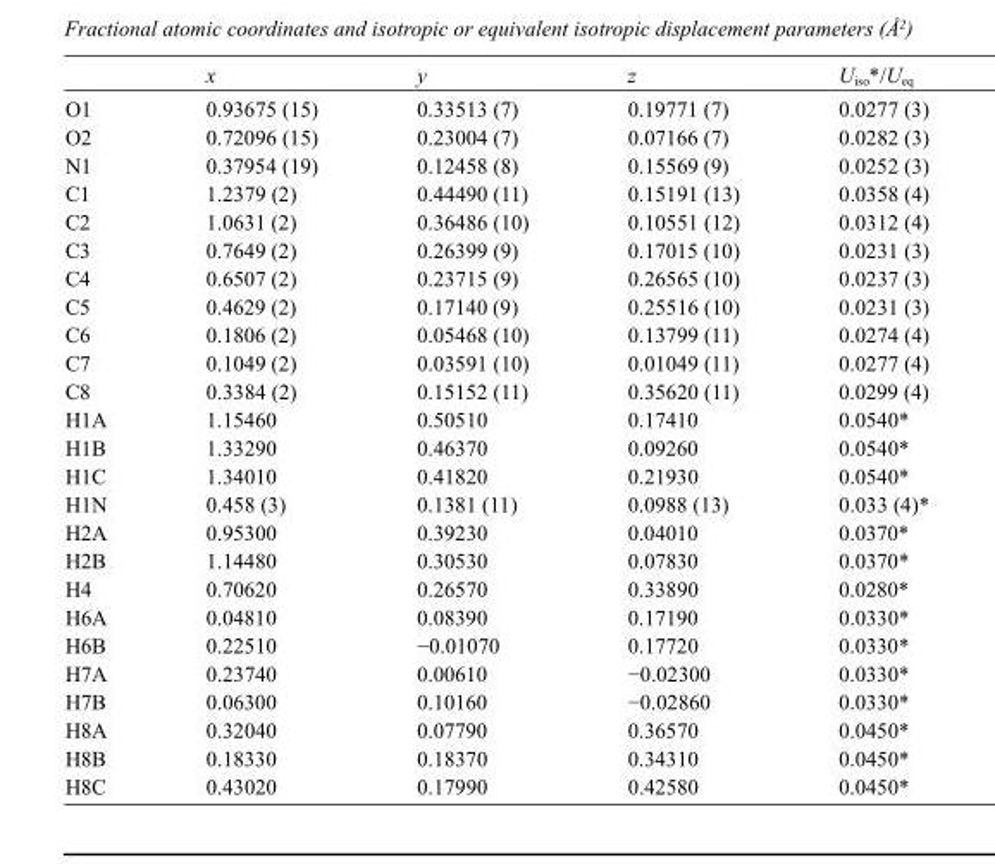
<table><thead><tr><td></td><td>x</td><td>y</td><td>z</td><td>U<sub>iso</sub>*/U<sub>eq</sub></td></tr></thead><tbody><tr><td>O1</td><td>0.93675 (15)</td><td>0.33513 (7)</td><td>0.19771 (7)</td><td>0.0277 (3)</td></tr><tr><td>O2</td><td>0.72096 (15)</td><td>0.23004 (7)</td><td>0.07166 (7)</td><td>0.0282 (3)</td></tr><tr><td>N1</td><td>0.37954 (19)</td><td>0.12458 (8)</td><td>0.15569 (9)</td><td>0.0252 (3)</td></tr><tr><td>C1</td><td>1.2379 (2)</td><td>0.44490 (11)</td><td>0.15191 (13)</td><td>0.0358 (4)</td></tr><tr><td>C2</td><td>1.0631 (2)</td><td>0.36486 (10)</td><td>0.10551 (12)</td><td>0.0312 (4)</td></tr><tr><td>C3</td><td>0.7649 (2)</td><td>0.26399 (9)</td><td>0.17015 (10)</td><td>0.0231 (3)</td></tr><tr><td>C4</td><td>0.6507 (2)</td><td>0.23715 (9)</td><td>0.26565 (10)</td><td>0.0237 (3)</td></tr><tr><td>C5</td><td>0.4629 (2)</td><td>0.17140 (9)</td><td>0.25516 (10)</td><td>0.0231 (3)</td></tr><tr><td>C6</td><td>0.1806 (2)</td><td>0.05468 (10)</td><td>0.13799 (11)</td><td>0.0274 (4)</td></tr><tr><td>C7</td><td>0.1049 (2)</td><td>0.03591 (10)</td><td>0.01049 (11)</td><td>0.0277 (4)</td></tr><tr><td>C8</td><td>0.3384 (2)</td><td>0.15152 (11)</td><td>0.35620 (11)</td><td>0.0299 (4)</td></tr><tr><td>H1A</td><td>1.15460</td><td>0.50510</td><td>0.17410</td><td>0.0540*</td></tr><tr><td>H1B</td><td>1.33290</td><td>0.46370</td><td>0.09260</td><td>0.0540*</td></tr><tr><td>H1C</td><td>1.34010</td><td>0.41820</td><td>0.21930</td><td>0.0540*</td></tr><tr><td>H1N</td><td>0.458 (3)</td><td>0.1381 (11)</td><td>0.0988 (13)</td><td>0.033 (4)*</td></tr><tr><td>H2A</td><td>0.95300</td><td>0.39230</td><td>0.04010</td><td>0.0370*</td></tr><tr><td>H2B</td><td>1.14480</td><td>0.30530</td><td>0.07830</td><td>0.0370*</td></tr><tr><td>H4</td><td>0.70620</td><td>0.26570</td><td>0.33890</td><td>0.0280*</td></tr><tr><td>H6A</td><td>0.04810</td><td>0.08390</td><td>0.17190</td><td>0.0330*</td></tr><tr><td>H6B</td><td>0.22510</td><td>−0.01070</td><td>0.17720</td><td>0.0330*</td></tr><tr><td>H7A</td><td>0.23740</td><td>0.00610</td><td>−0.02300</td><td>0.0330*</td></tr><tr><td>H7B</td><td>0.06300</td><td>0.10160</td><td>−0.02860</td><td>0.0330*</td></tr><tr><td>H8A</td><td>0.32040</td><td>0.07790</td><td>0.36570</td><td>0.0450*</td></tr><tr><td>H8B</td><td>0.18330</td><td>0.18370</td><td>0.34310</td><td>0.0450*</td></tr><tr><td>H8C</td><td>0.43020</td><td>0.17990</td><td>0.42580</td><td>0.0450*</td></tr></tbody></table>